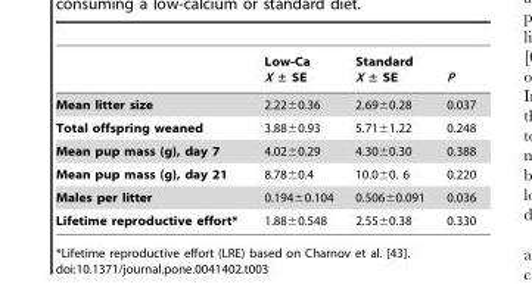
<table><thead><tr><td></td><td>Low-Ca X ± SE</td><td>Standard X ± SE</td><td>P</td></tr></thead><tbody><tr><td>Mean litter size</td><td>2.22±0.36</td><td>2.69±0.28</td><td>0.037</td></tr><tr><td>Total offspring weaned</td><td>3.88±0.93</td><td>5.71±1.22</td><td>0.248</td></tr><tr><td>Mean pup mass (g), day 7</td><td>4.02±0.29</td><td>4.30±0.30</td><td>0.388</td></tr><tr><td>Mean pup mass (g), day 21</td><td>8.78±0.4</td><td>10.0±0. 6</td><td>0.220</td></tr><tr><td>Males per litter</td><td>0.194±0.104</td><td>0.506±0.091</td><td>0.036</td></tr><tr><td>Lifetime reproductive effort*</td><td>1.88±0.548</td><td>2.55±0.38</td><td>0.330</td></tr></tbody></table>